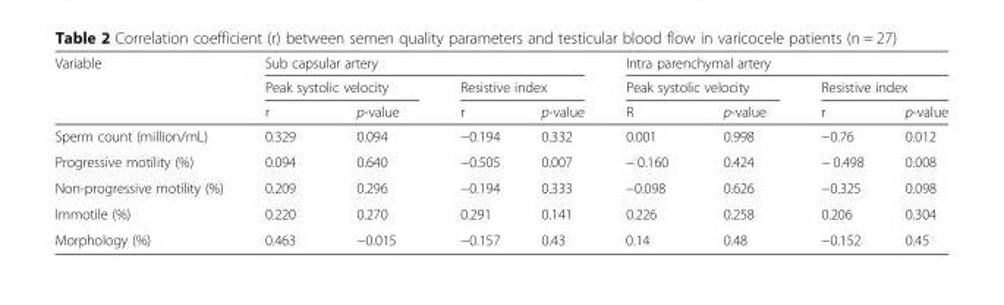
<table><thead><tr><td rowspan="3">Variable</td><td colspan="4">Sub capsular artery</td><td colspan="4">Intra parenchymal artery</td></tr><tr><td colspan="2">Peak systolic velocity</td><td colspan="2">Resistive index</td><td colspan="2">Peak systolic velocity</td><td colspan="2">Resistive index</td></tr><tr><td>r</td><td>p-value</td><td>r</td><td>p-value</td><td>R</td><td>p-value</td><td>r</td><td>p-value</td></tr></thead><tbody><tr><td>Sperm count (million/mL)</td><td>0.329</td><td>0.094</td><td>−0.194</td><td>0.332</td><td>0.001</td><td>0.998</td><td>−0.76</td><td>0.012</td></tr><tr><td>Progressive motility (%)</td><td>0.094</td><td>0.640</td><td>−0.505</td><td>0.007</td><td>− 0.160</td><td>0.424</td><td>− 0.498</td><td>0.008</td></tr><tr><td>Non-progressive motility (%)</td><td>0.209</td><td>0.296</td><td>−0.194</td><td>0.333</td><td>−0.098</td><td>0.626</td><td>−0.325</td><td>0.098</td></tr><tr><td>Immotile (%)</td><td>0.220</td><td>0.270</td><td>0.291</td><td>0.141</td><td>0.226</td><td>0.258</td><td>0.206</td><td>0.304</td></tr><tr><td>Morphology (%)</td><td>0.463</td><td>−0.015</td><td>−0.157</td><td>0.43</td><td>0.14</td><td>0.48</td><td>−0.152</td><td>0.45</td></tr></tbody></table>